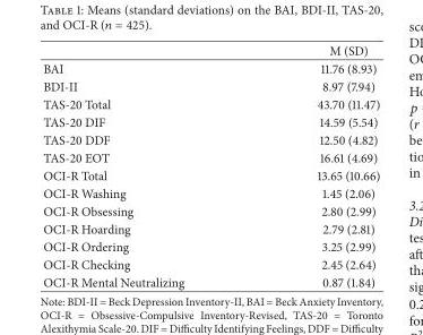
<table><thead><tr><td></td><td>M (SD)</td></tr></thead><tbody><tr><td>BAI</td><td>11.76 (8.93)</td></tr><tr><td>BDI-II</td><td>8.97 (7.94)</td></tr><tr><td>TAS-20 Total</td><td>43.70 (11.47)</td></tr><tr><td>TAS-20 DIF</td><td>14.59 (5.54)</td></tr><tr><td>TAS-20 DDF</td><td>12.50 (4.82)</td></tr><tr><td>TAS-20 EOT</td><td>16.61 (4.69)</td></tr><tr><td>OCI-R Total</td><td>13.65 (10.66)</td></tr><tr><td>OCI-R Washing</td><td>1.45 (2.06)</td></tr><tr><td>OCI-R Obsessing</td><td>2.80 (2.99)</td></tr><tr><td>OCI-R Hoarding</td><td>2.79 (2.81)</td></tr><tr><td>OCI-R Ordering</td><td>3.25 (2.99)</td></tr><tr><td>OCI-R Checking</td><td>2.45 (2.64)</td></tr><tr><td>OCI-R Mental Neutralizing</td><td>0.87 (1.84)</td></tr></tbody></table>